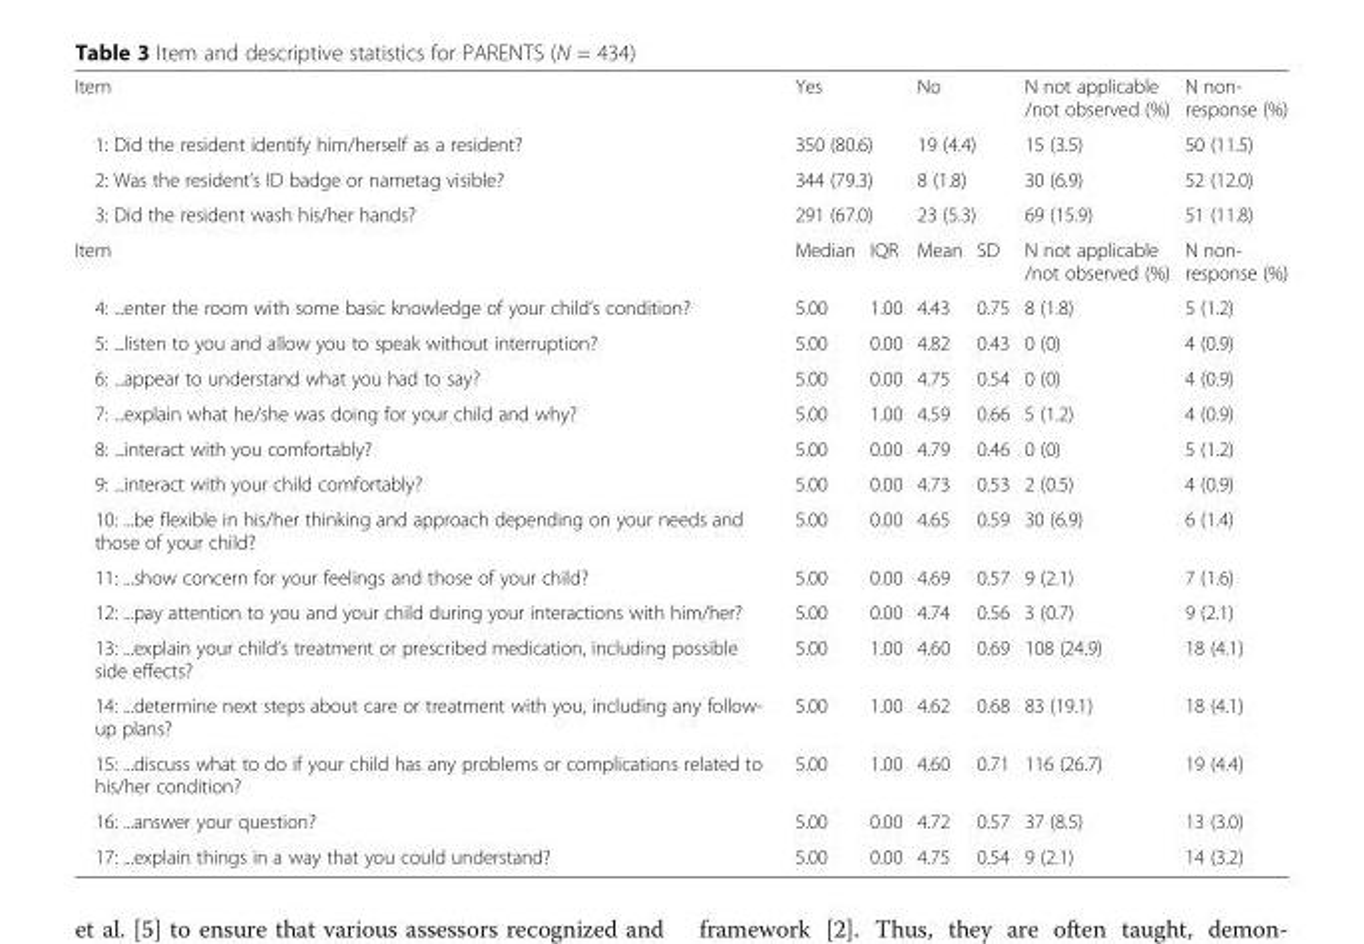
<table><tbody><tr><td>Item</td><td colspan="2">Yes</td><td colspan="2">No</td><td>N not applicable /not observed (%)</td><td>N non- response (%)</td></tr><tr><td>1: Did the resident identify him/herself as a resident?</td><td colspan="2">350 (80.6)</td><td colspan="2">19 (4.4)</td><td>15 (3.5)</td><td>50 (11.5)</td></tr><tr><td>2: Was the resident’s ID badge or nametag visible?</td><td colspan="2">344 (79.3)</td><td colspan="2">8 (1.8)</td><td>30 (6.9)</td><td>52 (12.0)</td></tr><tr><td>3: Did the resident wash his/her hands?</td><td colspan="2">291 (67.0)</td><td colspan="2">23 (5.3)</td><td>69 (15.9)</td><td>51 (11.8)</td></tr><tr><td>Item</td><td>Median</td><td>IQR</td><td>Mean</td><td>SD</td><td>N not applicable /not observed (%)</td><td>N non- response (%)</td></tr><tr><td>4: ...enter the room with some basic knowledge of your child’s condition?</td><td>5.00</td><td>1.00</td><td>4.43</td><td>0.75</td><td>8 (1.8)</td><td>5 (1.2)</td></tr><tr><td>5: ...listen to you and allow you to speak without interruption?</td><td>5.00</td><td>0.00</td><td>4.82</td><td>0.43</td><td>0 (0)</td><td>4 (0.9)</td></tr><tr><td>6: ...appear to understand what you had to say?</td><td>5.00</td><td>0.00</td><td>4.75</td><td>0.54</td><td>0 (0)</td><td>4 (0.9)</td></tr><tr><td>7: ...explain what he/she was doing for your child and why?</td><td>5.00</td><td>1.00</td><td>4.59</td><td>0.66</td><td>5 (1.2)</td><td>4 (0.9)</td></tr><tr><td>8: ...interact with you comfortably?</td><td>5.00</td><td>0.00</td><td>4.79</td><td>0.46</td><td>0 (0)</td><td>5 (1.2)</td></tr><tr><td>9: ...interact with your child comfortably?</td><td>5.00</td><td>0.00</td><td>4.73</td><td>0.53</td><td>2 (0.5)</td><td>4 (0.9)</td></tr><tr><td>10: ...be flexible in his/her thinking and approach depending on your needs and those of your child?</td><td>5.00</td><td>0.00</td><td>4.65</td><td>0.59</td><td>30 (6.9)</td><td>6 (1.4)</td></tr><tr><td>11: ...show concern for your feelings and those of your child?</td><td>5.00</td><td>0.00</td><td>4.69</td><td>0.57</td><td>9 (2.1)</td><td>7 (1.6)</td></tr><tr><td>12: ...pay attention to you and your child during your interactions with him/her?</td><td>5.00</td><td>0.00</td><td>4.74</td><td>0.56</td><td>3 (0.7)</td><td>9 (2.1)</td></tr><tr><td>13: ...explain your child’s treatment or prescribed medication, including possible side effects?</td><td>5.00</td><td>1.00</td><td>4.60</td><td>0.69</td><td>108 (24.9)</td><td>18 (4.1)</td></tr><tr><td>14: ...determine next steps about care or treatment with you, including any follow- up plans?</td><td>5.00</td><td>1.00</td><td>4.62</td><td>0.68</td><td>83 (19.1)</td><td>18 (4.1)</td></tr><tr><td>15: ...discuss what to do if your child has any problems or complications related to his/her condition?</td><td>5.00</td><td>1.00</td><td>4.60</td><td>0.71</td><td>116 (26.7)</td><td>19 (4.4)</td></tr><tr><td>16: ...answer your question?</td><td>5.00</td><td>0.00</td><td>4.72</td><td>0.57</td><td>37 (8.5)</td><td>13 (3.0)</td></tr><tr><td>17: ...explain things in a way that you could understand?</td><td>5.00</td><td>0.00</td><td>4.75</td><td>0.54</td><td>9 (2.1)</td><td>14 (3.2)</td></tr></tbody></table>